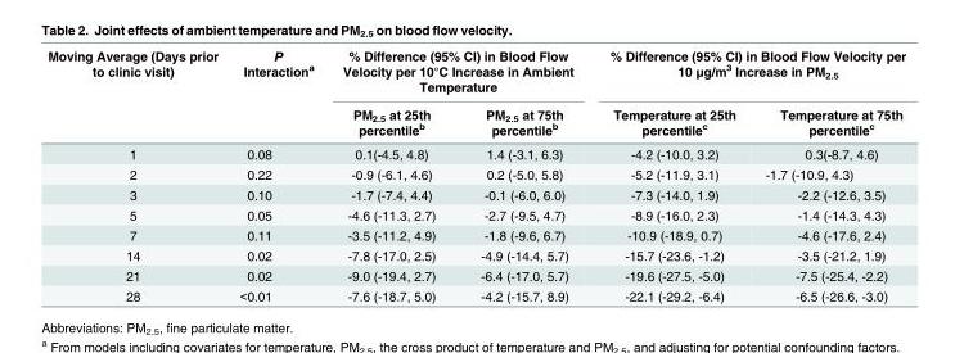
<table><thead><tr><td rowspan="2">Moving Average (Days prior to clinic visit)</td><td rowspan="2">P Interaction<sup>a</sup></td><td colspan="2">% Difference (95% CI) in Blood Flow Velocity per 10°C Increase in Ambient Temperature</td><td colspan="2">% Difference (95% CI) in Blood Flow Velocity per 10 μg/m<sup>3</sup> Increase in PM<sub>2.5</sub></td></tr><tr><td>PM<sub>2.5</sub> at 25th percentile<sup>b</sup></td><td>PM<sub>2.5</sub> at 75th percentile<sup>b</sup></td><td>Temperature at 25th percentile<sup>c</sup></td><td>Temperature at 75th percentile<sup>c</sup></td></tr></thead><tbody><tr><td>1</td><td>0.08</td><td>0.1(-4.5, 4.8)</td><td>1.4 (-3.1, 6.3)</td><td>-4.2 (-10.0, 3.2)</td><td>0.3(-8.7, 4.6)</td></tr><tr><td>2</td><td>0.22</td><td>-0.9 (-6.1, 4.6)</td><td>0.2 (-5.0, 5.8)</td><td>-5.2 (-11.9, 3.1)</td><td>-1.7 (-10.9, 4.3)</td></tr><tr><td>3</td><td>0.10</td><td>-1.7 (-7.4, 4.4)</td><td>-0.1 (-6.0, 6.0)</td><td>-7.3 (-14.0, 1.9)</td><td>-2.2 (-12.6, 3.5)</td></tr><tr><td>5</td><td>0.05</td><td>-4.6 (-11.3, 2.7)</td><td>-2.7 (-9.5, 4.7)</td><td>-8.9 (-16.0, 2.3)</td><td>-1.4 (-14.3, 4.3)</td></tr><tr><td>7</td><td>0.11</td><td>-3.5 (-11.2, 4.9)</td><td>-1.8 (-9.6, 6.7)</td><td>-10.9 (-18.9, 0.7)</td><td>-4.6 (-17.6, 2.4)</td></tr><tr><td>14</td><td>0.02</td><td>-7.8 (-17.0, 2.5)</td><td>-4.9 (-14.4, 5.7)</td><td>-15.7 (-23.6, -1.2)</td><td>-3.5 (-21.2, 1.9)</td></tr><tr><td>21</td><td>0.02</td><td>-9.0 (-19.4, 2.7)</td><td>-6.4 (-17.0, 5.7)</td><td>-19.6 (-27.5, -5.0)</td><td>-7.5 (-25.4, -2.2)</td></tr><tr><td>28</td><td>&lt;0.01</td><td>-7.6 (-18.7, 5.0)</td><td>-4.2 (-15.7, 8.9)</td><td>-22.1 (-29.2, -6.4)</td><td>-6.5 (-26.6, -3.0)</td></tr></tbody></table>